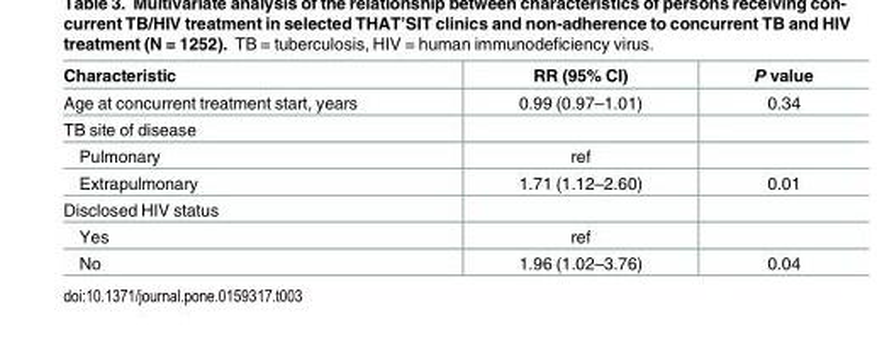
<table><thead><tr><td>Characteristic</td><td>RR (95% CI)</td><td>P value</td></tr></thead><tbody><tr><td>Age at concurrent treatment start, years</td><td>0.99 (0.97–1.01)</td><td>0.34</td></tr><tr><td colspan="3">TB site of disease</td></tr><tr><td>Pulmonary</td><td>ref</td><td></td></tr><tr><td>Extrapulmonary</td><td>1.71 (1.12–2.60)</td><td>0.01</td></tr><tr><td colspan="3">Disclosed HIV status</td></tr><tr><td>Yes</td><td>ref</td><td></td></tr><tr><td>No</td><td>1.96 (1.02–3.76)</td><td>0.04</td></tr></tbody></table>